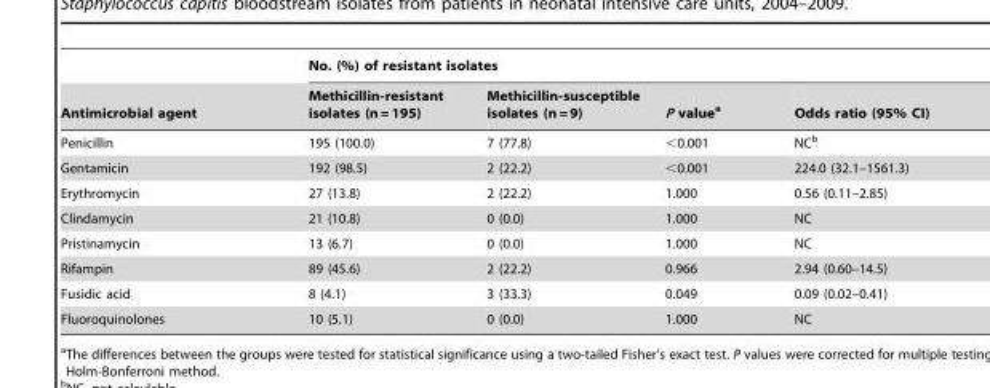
<table><thead><tr><td rowspan="2">Antimicrobial agent</td><td colspan="4">No. (%) of resistant isolates</td></tr><tr><td>Methicillin-resistant isolates (n = 195)</td><td>Methicillin-susceptible isolates (n = 9)</td><td>P value<sup>a</sup></td><td>Odds ratio (95% CI)</td></tr></thead><tbody><tr><td>Penicillin</td><td>195 (100.0)</td><td>7 (77.8)</td><td>&lt;0.001</td><td>NC<sup>b</sup></td></tr><tr><td>Gentamicin</td><td>192 (98.5)</td><td>2 (22.2)</td><td>&lt;0.001</td><td>224.0 (32.1–1561.3)</td></tr><tr><td>Erythromycin</td><td>27 (13.8)</td><td>2 (22.2)</td><td>1.000</td><td>0.56 (0.11–2.85)</td></tr><tr><td>Clindamycin</td><td>21 (10.8)</td><td>0 (0.0)</td><td>1.000</td><td>NC</td></tr><tr><td>Pristinamycin</td><td>13 (6.7)</td><td>0 (0.0)</td><td>1.000</td><td>NC</td></tr><tr><td>Rifampin</td><td>89 (45.6)</td><td>2 (22.2)</td><td>0.966</td><td>2.94 (0.60–14.5)</td></tr><tr><td>Fusidic acid</td><td>8 (4.1)</td><td>3 (33.3)</td><td>0.049</td><td>0.09 (0.02–0.41)</td></tr><tr><td>Fluoroquinolones</td><td>10 (5.1)</td><td>0 (0.0)</td><td>1.000</td><td>NC</td></tr></tbody></table>